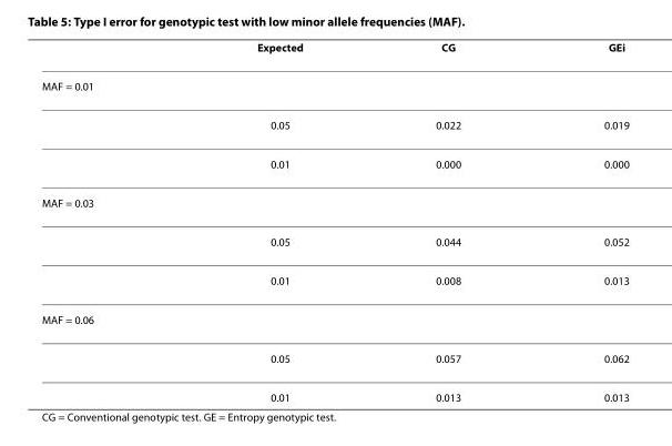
<table><thead><tr><td></td><td>Expected</td><td>CG</td><td>GE<sub>i</sub></td></tr></thead><tbody><tr><td colspan="4">MAF = 0.01</td></tr><tr><td></td><td>0.05</td><td>0.022</td><td>0.019</td></tr><tr><td></td><td>0.01</td><td>0.000</td><td>0.000</td></tr><tr><td colspan="4">MAF = 0.03</td></tr><tr><td></td><td>0.05</td><td>0.044</td><td>0.052</td></tr><tr><td></td><td>0.01</td><td>0.008</td><td>0.013</td></tr><tr><td colspan="4">MAF = 0.06</td></tr><tr><td></td><td>0.05</td><td>0.057</td><td>0.062</td></tr><tr><td></td><td>0.01</td><td>0.013</td><td>0.013</td></tr></tbody></table>